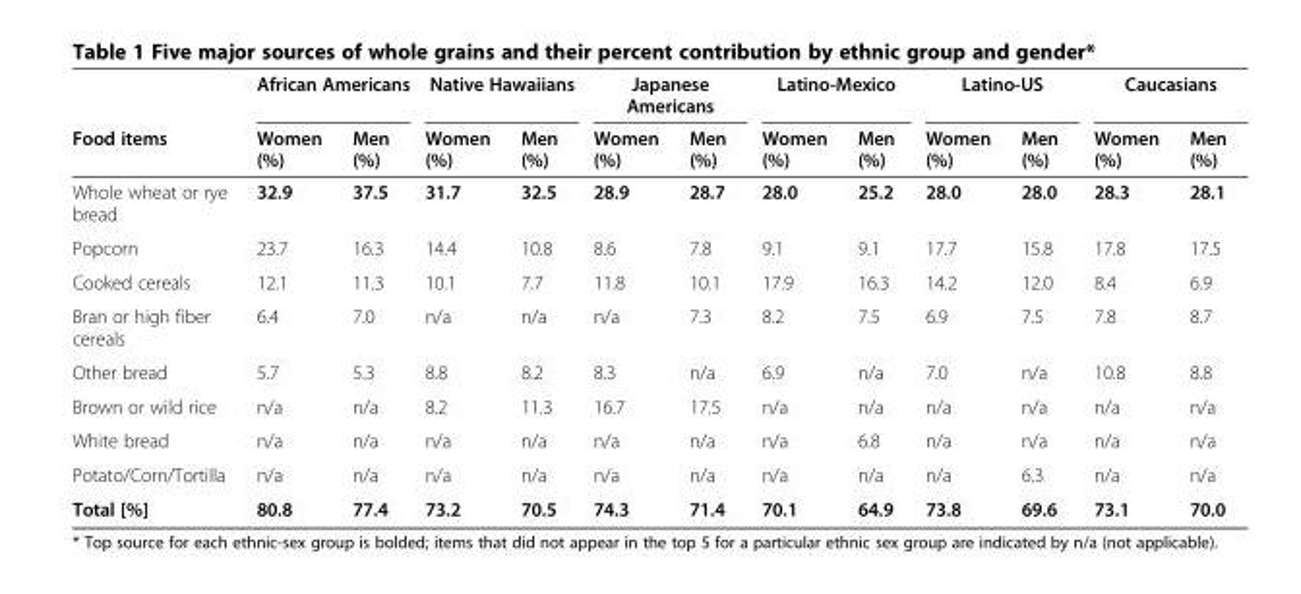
<table><thead><tr><td rowspan="2">Food items</td><td colspan="2">African Americans</td><td colspan="2">Native Hawaiians</td><td colspan="2">Japanese Americans</td><td colspan="2">Latino-Mexico</td><td colspan="2">Latino-US</td><td colspan="2">Caucasians</td></tr><tr><td>Women (%)</td><td>Men (%)</td><td>Women (%)</td><td>Men (%)</td><td>Women (%)</td><td>Men (%)</td><td>Women (%)</td><td>Men (%)</td><td>Women (%)</td><td>Men (%)</td><td>Women (%)</td><td>Men (%)</td></tr></thead><tbody><tr><td>Whole wheat or rye bread</td><td>32.9</td><td>37.5</td><td>31.7</td><td>32.5</td><td>28.9</td><td>28.7</td><td>28.0</td><td>25.2</td><td>28.0</td><td>28.0</td><td>28.3</td><td>28.1</td></tr><tr><td>Popcorn</td><td>23.7</td><td>16.3</td><td>14.4</td><td>10.8</td><td>8.6</td><td>7.8</td><td>9.1</td><td>9.1</td><td>17.7</td><td>15.8</td><td>17.8</td><td>17.5</td></tr><tr><td>Cooked cereals</td><td>12.1</td><td>11.3</td><td>10.1</td><td>7.7</td><td>11.8</td><td>10.1</td><td>17.9</td><td>16.3</td><td>14.2</td><td>12.0</td><td>8.4</td><td>6.9</td></tr><tr><td>Bran or high fiber cereals</td><td>6.4</td><td>7.0</td><td>n/a</td><td>n/a</td><td>n/a</td><td>7.3</td><td>8.2</td><td>7.5</td><td>6.9</td><td>7.5</td><td>7.8</td><td>8.7</td></tr><tr><td>Other bread</td><td>5.7</td><td>5.3</td><td>8.8</td><td>8.2</td><td>8.3</td><td>n/a</td><td>6.9</td><td>n/a</td><td>7.0</td><td>n/a</td><td>10.8</td><td>8.8</td></tr><tr><td>Brown or wild rice</td><td>n/a</td><td>n/a</td><td>8.2</td><td>11.3</td><td>16.7</td><td>17.5</td><td>n/a</td><td>n/a</td><td>n/a</td><td>n/a</td><td>n/a</td><td>n/a</td></tr><tr><td>White bread</td><td>n/a</td><td>n/a</td><td>n/a</td><td>n/a</td><td>n/a</td><td>n/a</td><td>n/a</td><td>6.8</td><td>n/a</td><td>n/a</td><td>n/a</td><td>n/a</td></tr><tr><td>Potato/Corn/Tortilla</td><td>n/a</td><td>n/a</td><td>n/a</td><td>n/a</td><td>n/a</td><td>n/a</td><td>n/a</td><td>n/a</td><td>n/a</td><td>6.3</td><td>n/a</td><td>n/a</td></tr><tr><td>Total [%]</td><td>80.8</td><td>77.4</td><td>73.2</td><td>70.5</td><td>74.3</td><td>71.4</td><td>70.1</td><td>64.9</td><td>73.8</td><td>69.6</td><td>73.1</td><td>70.0</td></tr></tbody></table>